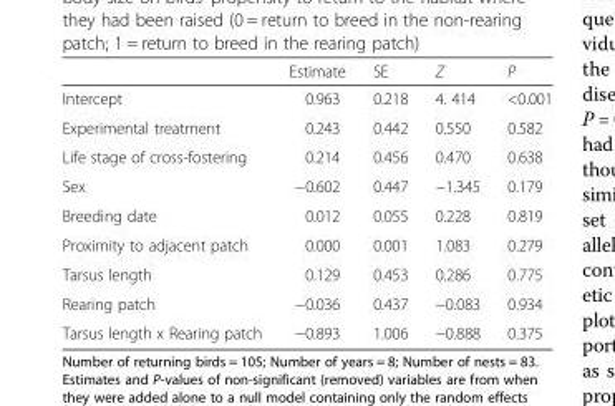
<table><thead><tr><td></td><td>Estimate</td><td>SE</td><td>Z</td><td>P</td></tr></thead><tbody><tr><td>Intercept</td><td>0.963</td><td>0.218</td><td>4. 414</td><td>&lt;0.001</td></tr><tr><td>Experimental treatment</td><td>0.243</td><td>0.442</td><td>0.550</td><td>0.582</td></tr><tr><td>Life stage of cross-fostering</td><td>0.214</td><td>0.456</td><td>0.470</td><td>0.638</td></tr><tr><td>Sex</td><td>−0.602</td><td>0.447</td><td>−1.345</td><td>0.179</td></tr><tr><td>Breeding date</td><td>0.012</td><td>0.055</td><td>0.228</td><td>0.819</td></tr><tr><td>Proximity to adjacent patch</td><td>0.000</td><td>0.001</td><td>1.083</td><td>0.279</td></tr><tr><td>Tarsus length</td><td>0.129</td><td>0.453</td><td>0.286</td><td>0.775</td></tr><tr><td>Rearing patch</td><td>−0.036</td><td>0.437</td><td>−0.083</td><td>0.934</td></tr><tr><td>Tarsus length x Rearing patch</td><td>−0.893</td><td>1.006</td><td>−0.888</td><td>0.375</td></tr></tbody></table>